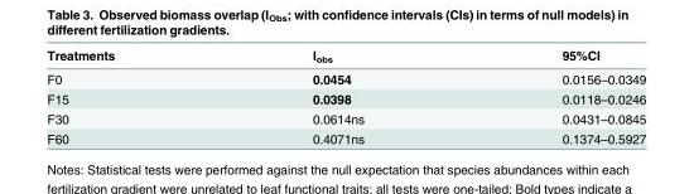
<table><thead><tr><td>Treatments</td><td>I<sub>obs</sub></td><td>95%CI</td></tr></thead><tbody><tr><td>F0</td><td>0.0454</td><td>0.0156–0.0349</td></tr><tr><td>F15</td><td>0.0398</td><td>0.0118–0.0246</td></tr><tr><td>F30</td><td>0.0614ns</td><td>0.0431–0.0845</td></tr><tr><td>F60</td><td>0.4071ns</td><td>0.1374–0.5927</td></tr></tbody></table>